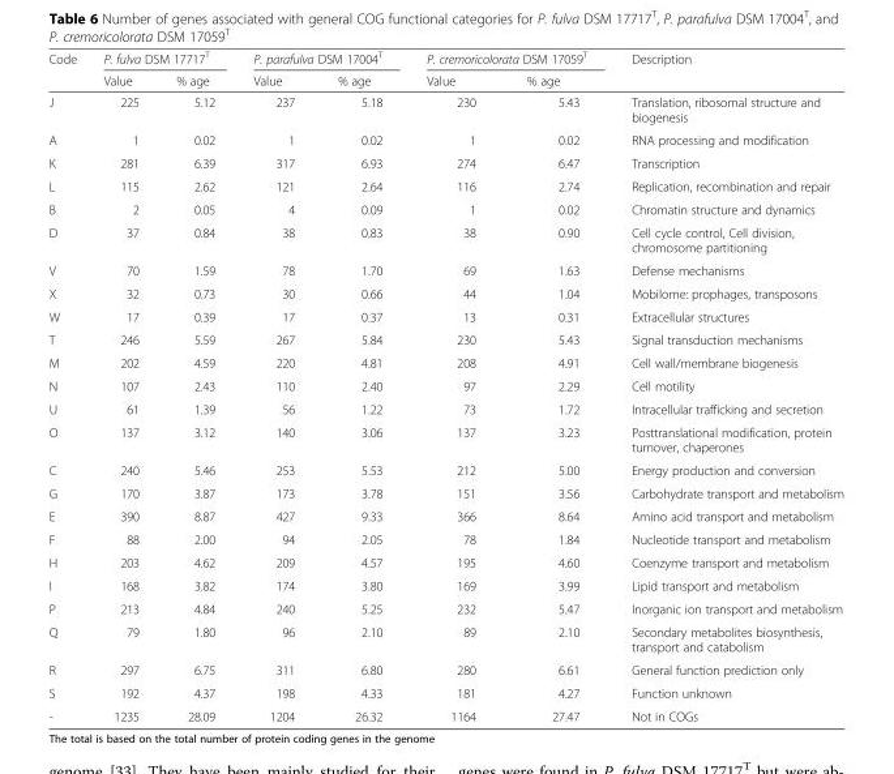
<table><thead><tr><td rowspan="2">Code</td><td colspan="2">P. fulva DSM 17717<sup>T</sup></td><td colspan="2">P. parafulva DSM 17004<sup>T</sup></td><td colspan="2">P. cremoricolorata DSM 17059<sup>T</sup></td><td rowspan="2">Description</td></tr><tr><td>Value</td><td>% age</td><td>Value</td><td>% age</td><td>Value</td><td>% age</td></tr></thead><tbody><tr><td>J</td><td>225</td><td>5.12</td><td>237</td><td>5.18</td><td>230</td><td>5.43</td><td>Translation, ribosomal structure and biogenesis</td></tr><tr><td>A</td><td>1</td><td>0.02</td><td>1</td><td>0.02</td><td>1</td><td>0.02</td><td>RNA processing and modification</td></tr><tr><td>K</td><td>281</td><td>6.39</td><td>317</td><td>6.93</td><td>274</td><td>6.47</td><td>Transcription</td></tr><tr><td>L</td><td>115</td><td>2.62</td><td>121</td><td>2.64</td><td>116</td><td>2.74</td><td>Replication, recombination and repair</td></tr><tr><td>B</td><td>2</td><td>0.05</td><td>4</td><td>0.09</td><td>1</td><td>0.02</td><td>Chromatin structure and dynamics</td></tr><tr><td>D</td><td>37</td><td>0.84</td><td>38</td><td>0.83</td><td>38</td><td>0.90</td><td>Cell cycle control, Cell division, chromosome partitioning</td></tr><tr><td>V</td><td>70</td><td>1.59</td><td>78</td><td>1.70</td><td>69</td><td>1.63</td><td>Defense mechanisms</td></tr><tr><td>X</td><td>32</td><td>0.73</td><td>30</td><td>0.66</td><td>44</td><td>1.04</td><td>Mobilome: prophages, transposons</td></tr><tr><td>W</td><td>17</td><td>0.39</td><td>17</td><td>0.37</td><td>13</td><td>0.31</td><td>Extracellular structures</td></tr><tr><td>T</td><td>246</td><td>5.59</td><td>267</td><td>5.84</td><td>230</td><td>5.43</td><td>Signal transduction mechanisms</td></tr><tr><td>M</td><td>202</td><td>4.59</td><td>220</td><td>4.81</td><td>208</td><td>4.91</td><td>Cell wall/membrane biogenesis</td></tr><tr><td>N</td><td>107</td><td>2.43</td><td>110</td><td>2.40</td><td>97</td><td>2.29</td><td>Cell motility</td></tr><tr><td>U</td><td>61</td><td>1.39</td><td>56</td><td>1.22</td><td>73</td><td>1.72</td><td>Intracellular trafficking and secretion</td></tr><tr><td>O</td><td>137</td><td>3.12</td><td>140</td><td>3.06</td><td>137</td><td>3.23</td><td>Posttranslational modification, protein turnover, chaperones</td></tr><tr><td>C</td><td>240</td><td>5.46</td><td>253</td><td>5.53</td><td>212</td><td>5.00</td><td>Energy production and conversion</td></tr><tr><td>G</td><td>170</td><td>3.87</td><td>173</td><td>3.78</td><td>151</td><td>3.56</td><td>Carbohydrate transport and metabolism</td></tr><tr><td>E</td><td>390</td><td>8.87</td><td>427</td><td>9.33</td><td>366</td><td>8.64</td><td>Amino acid transport and metabolism</td></tr><tr><td>F</td><td>88</td><td>2.00</td><td>94</td><td>2.05</td><td>78</td><td>1.84</td><td>Nucleotide transport and metabolism</td></tr><tr><td>H</td><td>203</td><td>4.62</td><td>209</td><td>4.57</td><td>195</td><td>4.60</td><td>Coenzyme transport and metabolism</td></tr><tr><td>I</td><td>168</td><td>3.82</td><td>174</td><td>3.80</td><td>169</td><td>3.99</td><td>Lipid transport and metabolism</td></tr><tr><td>P</td><td>213</td><td>4.84</td><td>240</td><td>5.25</td><td>232</td><td>5.47</td><td>Inorganic ion transport and metabolism</td></tr><tr><td>Q</td><td>79</td><td>1.80</td><td>96</td><td>2.10</td><td>89</td><td>2.10</td><td>Secondary metabolites biosynthesis, transport and catabolism</td></tr><tr><td>R</td><td>297</td><td>6.75</td><td>311</td><td>6.80</td><td>280</td><td>6.61</td><td>General function prediction only</td></tr><tr><td>S</td><td>192</td><td>4.37</td><td>198</td><td>4.33</td><td>181</td><td>4.27</td><td>Function unknown</td></tr><tr><td>-</td><td>1235</td><td>28.09</td><td>1204</td><td>26.32</td><td>1164</td><td>27.47</td><td>Not in COGs</td></tr></tbody></table>